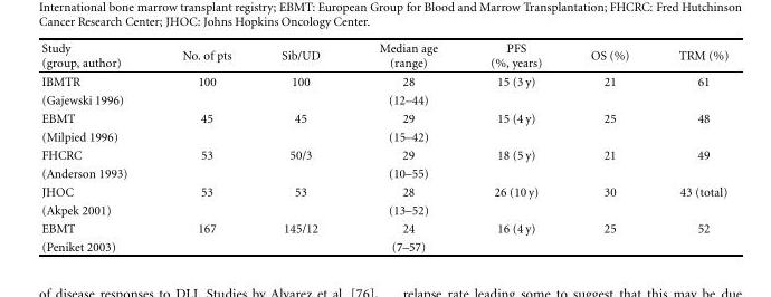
<table><thead><tr><td>Study (group, author)</td><td>No. of pts</td><td>Sib/UD</td><td>Median age (range)</td><td>PFS (%, years)</td><td>OS (%)</td><td>TRM (%)</td></tr></thead><tbody><tr><td>IBMTR</td><td>100</td><td>100</td><td>28</td><td>15 (3 y)</td><td>21</td><td>61</td></tr><tr><td>(Gajewski 1996)</td><td></td><td></td><td>(12–44)</td><td></td><td></td><td></td></tr><tr><td>EBMT</td><td>45</td><td>45</td><td>29</td><td>15 (4 y)</td><td>25</td><td>48</td></tr><tr><td>(Milpied 1996)</td><td></td><td></td><td>(15–42)</td><td></td><td></td><td></td></tr><tr><td>FHCRC</td><td>53</td><td>50/3</td><td>29</td><td>18 (5 y)</td><td>21</td><td>49</td></tr><tr><td>(Anderson 1993)</td><td></td><td></td><td>(10–55)</td><td></td><td></td><td></td></tr><tr><td>JHOC</td><td>53</td><td>53</td><td>28</td><td>26 (10 y)</td><td>30</td><td>43 (total)</td></tr><tr><td>(Akpek 2001)</td><td></td><td></td><td>(13–52)</td><td></td><td></td><td></td></tr><tr><td>EBMT</td><td>167</td><td>145/12</td><td>24</td><td>16 (4 y)</td><td>25</td><td>52</td></tr><tr><td>(Peniket 2003)</td><td></td><td></td><td>(7–57)</td><td></td><td></td><td></td></tr></tbody></table>